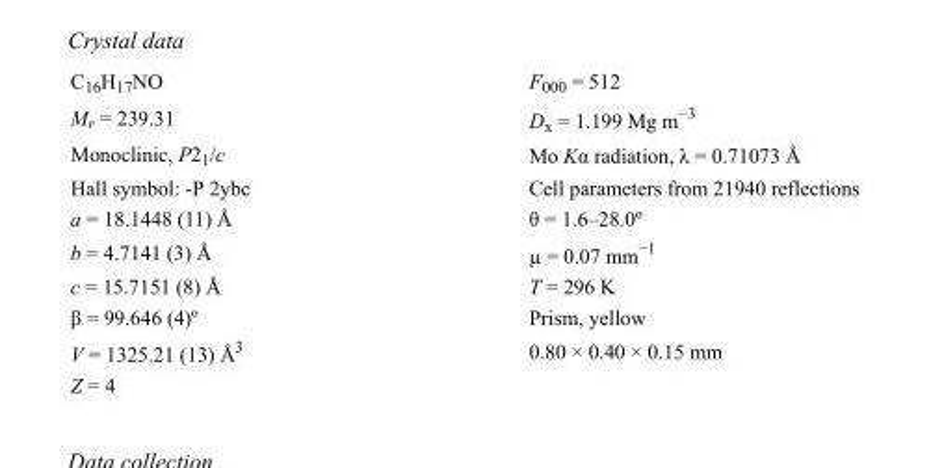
<table><tbody><tr><td>C<sub>16</sub>H<sub>17</sub>NO</td><td>F000 = 512</td></tr><tr><td>M<sub>r</sub> = 239.31</td><td>D<sub>x</sub> = 1.199 Mg m<sup>−3</sup></td></tr><tr><td>Monoclinic, P2<sub>1</sub>/c</td><td>Mo Kα radiation, λ = 0.71073 Å</td></tr><tr><td>Hall symbol: -P 2ybc</td><td>Cell parameters from 21940 reflections</td></tr><tr><td>a = 18.1448 (11) Å</td><td>θ = 1.6–28.0º</td></tr><tr><td>b = 4.7141 (3) Å</td><td>µ = 0.07 mm<sup>−1</sup></td></tr><tr><td>c = 15.7151 (8) Å</td><td>T = 296 K</td></tr><tr><td>β = 99.646 (4)º</td><td>Prism, yellow</td></tr><tr><td>V = 1325.21 (13) Å<sup>3</sup></td><td>0.80 × 0.40 × 0.15 mm</td></tr><tr><td>Z = 4</td><td></td></tr></tbody></table>